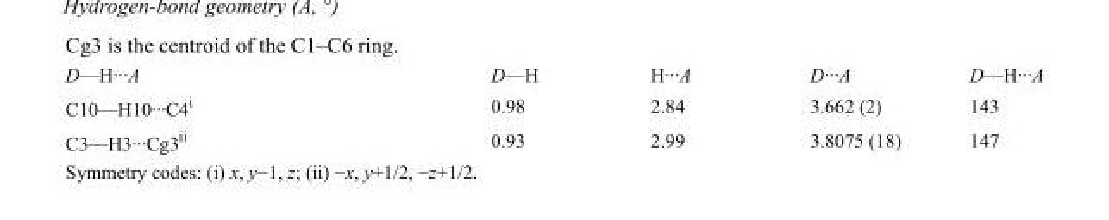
<table><tbody><tr><td>D—H···A</td><td>D—H</td><td>H···A</td><td>D···A</td><td>D—H···A</td></tr><tr><td>C10—H10···C4<sup>i</sup></td><td>0.98</td><td>2.84</td><td>3.662 (2)</td><td>143</td></tr><tr><td>C3—H3···Cg3<sup>ii</sup></td><td>0.93</td><td>2.99</td><td>3.8075 (18)</td><td>147</td></tr></tbody></table>